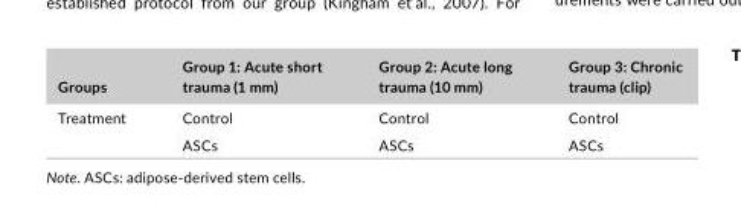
<table><thead><tr><td>Groups</td><td>Group 1: Acute short trauma (1 mm)</td><td>Group 2: Acute long trauma (10 mm)</td><td>Group 3: Chronic trauma (clip)</td></tr></thead><tbody><tr><td rowspan="2">Treatment</td><td>Control</td><td>Control</td><td>Control</td></tr><tr><td>ASCs</td><td>ASCs</td><td>ASCs</td></tr></tbody></table>